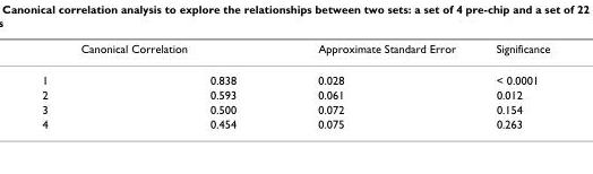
<table><thead><tr><td colspan="2">Canonical Correlation</td><td rowspan="2">Approximate Standard Error 0.028</td><td rowspan="2">Significance &lt; 0.0001</td></tr><tr><td>1</td><td>0.838</td></tr></thead><tbody><tr><td>2</td><td>0.593</td><td>0.061</td><td>0.012</td></tr><tr><td>3</td><td>0.500</td><td>0.072</td><td>0.154</td></tr><tr><td>4</td><td>0.454</td><td>0.075</td><td>0.263</td></tr></tbody></table>